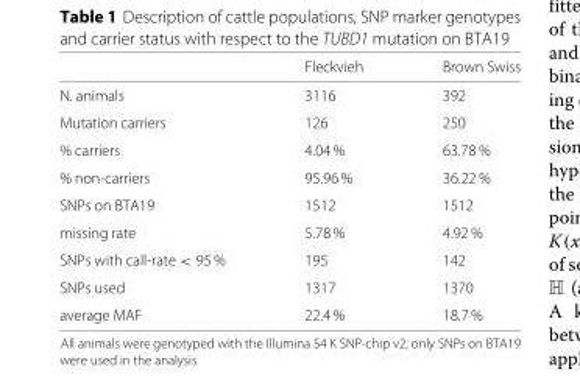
<table><thead><tr><td></td><td>Fleckvieh</td><td>Brown Swiss</td></tr></thead><tbody><tr><td>N. animals</td><td>3116</td><td>392</td></tr><tr><td>Mutation carriers</td><td>126</td><td>250</td></tr><tr><td>% carriers</td><td>4.04 %</td><td>63.78 %</td></tr><tr><td>% non-carriers</td><td>95.96 %</td><td>36.22 %</td></tr><tr><td>SNPs on BTA19</td><td>1512</td><td>1512</td></tr><tr><td>missing rate</td><td>5.78 %</td><td>4.92 %</td></tr><tr><td>SNPs with call-rate &lt; 95 %</td><td>195</td><td>142</td></tr><tr><td>SNPs used</td><td>1317</td><td>1370</td></tr><tr><td>average MAF</td><td>22.4 %</td><td>18.7 %</td></tr></tbody></table>